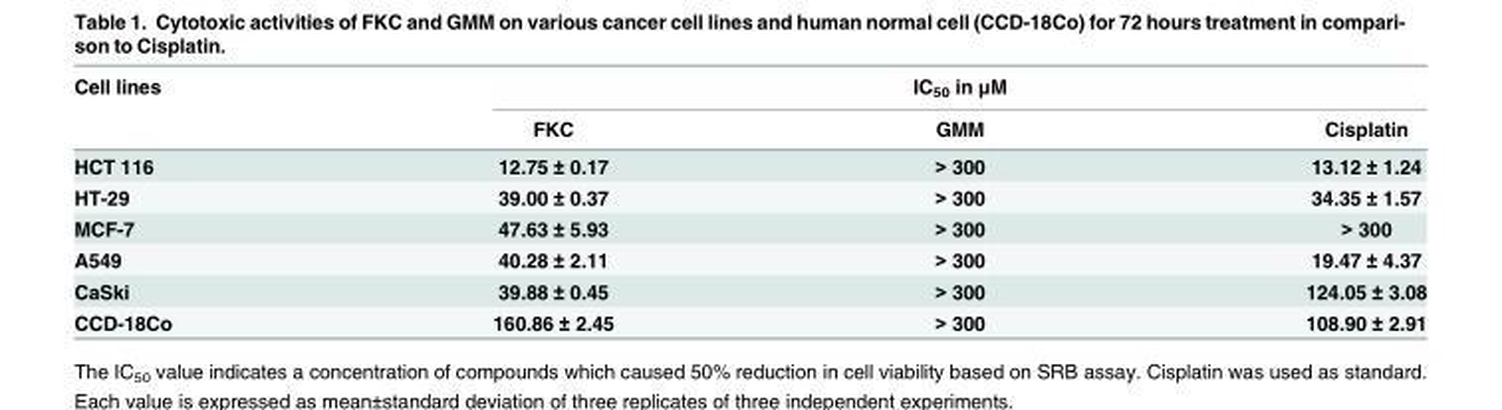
<table><thead><tr><td rowspan="2">Cell lines</td><td colspan="3">IC<sub>50</sub> in μM</td></tr><tr><td>FKC</td><td>GMM</td><td>Cisplatin</td></tr></thead><tbody><tr><td>HCT 116</td><td>12.75 ± 0.17</td><td>&gt; 300</td><td>13.12 ± 1.24</td></tr><tr><td>HT-29</td><td>39.00 ± 0.37</td><td>&gt; 300</td><td>34.35 ± 1.57</td></tr><tr><td>MCF-7</td><td>47.63 ± 5.93</td><td>&gt; 300</td><td>&gt; 300</td></tr><tr><td>A549</td><td>40.28 ± 2.11</td><td>&gt; 300</td><td>19.47 ± 4.37</td></tr><tr><td>CaSki</td><td>39.88 ± 0.45</td><td>&gt; 300</td><td>124.05 ± 3.08</td></tr><tr><td>CCD-18Co</td><td>160.86 ± 2.45</td><td>&gt; 300</td><td>108.90 ± 2.91</td></tr></tbody></table>